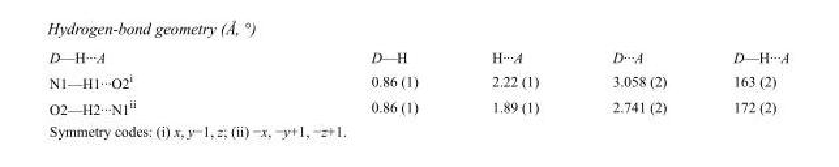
<table><tbody><tr><td>D—H···A</td><td>D—H</td><td>H···A</td><td>D···A</td><td>D—H···A</td></tr><tr><td>N1—H1···O2<sup>i</sup></td><td>0.86 (1)</td><td>2.22 (1)</td><td>3.058 (2)</td><td>163 (2)</td></tr><tr><td>O2—H2···N1<sup>ii</sup></td><td>0.86 (1)</td><td>1.89 (1)</td><td>2.741 (2)</td><td>172 (2)</td></tr></tbody></table>